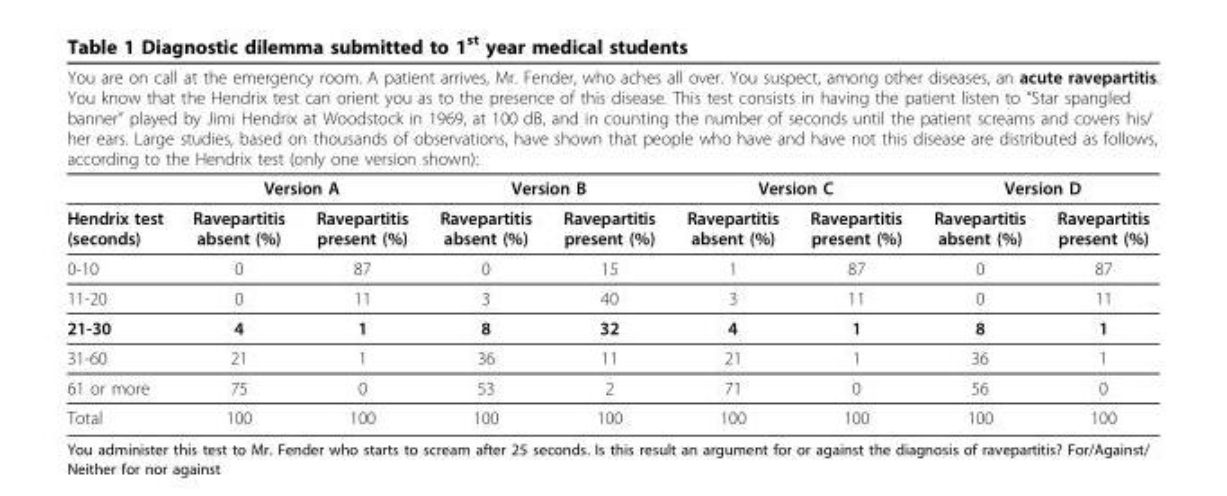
<table><thead><tr><td colspan="9">You are on call at the emergency room. A patient arrives, Mr. Fender, who aches all over. You suspect, among other diseases, an acute ravepartitis. You know that the Hendrix test can orient you as to the presence of this disease. This test consists in having the patient listen to “Star spangled banner” played by Jimi Hendrix at Woodstock in 1969, at 100 dB, and in counting the number of seconds until the patient screams and covers his/ her ears. Large studies, based on thousands of observations, have shown that people who have and have not this disease are distributed as follows, according to the Hendrix test (only one version shown):</td></tr><tr><td rowspan="2">Hendrix test (seconds)</td><td colspan="2">Version A</td><td colspan="2">Version B</td><td colspan="2">Version C</td><td colspan="2">Version D</td></tr><tr><td>Ravepartitis absent (%)</td><td>Ravepartitis present (%)</td><td>Ravepartitis absent (%)</td><td>Ravepartitis present (%)</td><td>Ravepartitis absent (%)</td><td>Ravepartitis present (%)</td><td>Ravepartitis absent (%)</td><td>Ravepartitis present (%)</td></tr></thead><tbody><tr><td>0-10</td><td>0</td><td>87</td><td>0</td><td>15</td><td>1</td><td>87</td><td>0</td><td>87</td></tr><tr><td>11-20</td><td>0</td><td>11</td><td>3</td><td>40</td><td>3</td><td>11</td><td>0</td><td>11</td></tr><tr><td>21-30</td><td>4</td><td>1</td><td>8</td><td>32</td><td>4</td><td>1</td><td>8</td><td>1</td></tr><tr><td>31-60</td><td>21</td><td>1</td><td>36</td><td>11</td><td>21</td><td>1</td><td>36</td><td>1</td></tr><tr><td>61 or more</td><td>75</td><td>0</td><td>53</td><td>2</td><td>71</td><td>0</td><td>56</td><td>0</td></tr><tr><td>Total</td><td>100</td><td>100</td><td>100</td><td>100</td><td>100</td><td>100</td><td>100</td><td>100</td></tr></tbody></table>